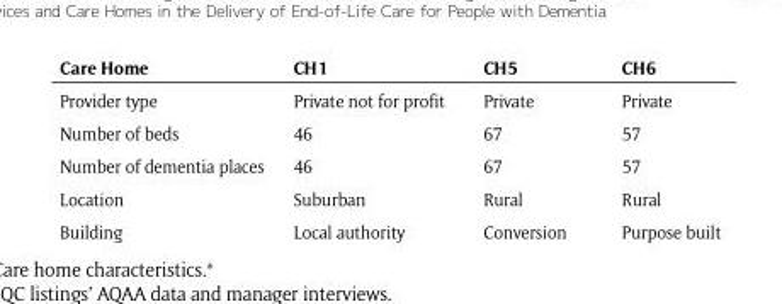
<table><thead><tr><td>Care Home</td><td>CH1</td><td>CH5</td><td>CH6</td></tr></thead><tbody><tr><td>Provider type</td><td>Private not for profit</td><td>Private</td><td>Private</td></tr><tr><td>Number of beds</td><td>46</td><td>67</td><td>57</td></tr><tr><td>Number of dementia places</td><td>46</td><td>67</td><td>57</td></tr><tr><td>Location</td><td>Suburban</td><td>Rural</td><td>Rural</td></tr><tr><td>Building</td><td>Local authority</td><td>Conversion</td><td>Purpose built</td></tr></tbody></table>